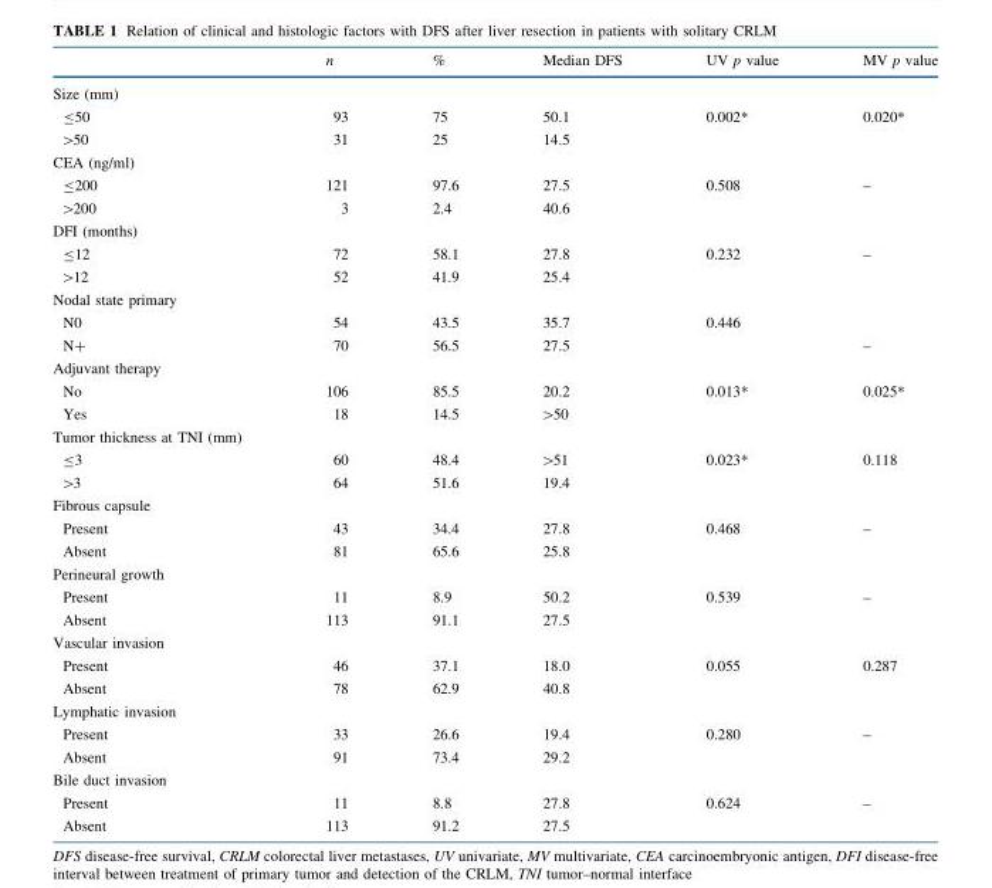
<table><thead><tr><td></td><td>n</td><td>%</td><td>Median DFS</td><td>UV p value</td><td>MV p value</td></tr></thead><tbody><tr><td colspan="6">Size (mm)</td></tr><tr><td>≤50</td><td>93</td><td>75</td><td>50.1</td><td>0.002*</td><td>0.020*</td></tr><tr><td>&gt;50</td><td>31</td><td>25</td><td>14.5</td><td></td><td></td></tr><tr><td colspan="6">CEA (ng/ml)</td></tr><tr><td>≤200</td><td>121</td><td>97.6</td><td>27.5</td><td>0.508</td><td>–</td></tr><tr><td>&gt;200</td><td>3</td><td>2.4</td><td>40.6</td><td></td><td></td></tr><tr><td colspan="6">DFI (months)</td></tr><tr><td>≤12</td><td>72</td><td>58.1</td><td>27.8</td><td>0.232</td><td>–</td></tr><tr><td>&gt;12</td><td>52</td><td>41.9</td><td>25.4</td><td></td><td></td></tr><tr><td colspan="6">Nodal state primary</td></tr><tr><td>N0</td><td>54</td><td>43.5</td><td>35.7</td><td>0.446</td><td></td></tr><tr><td>N+</td><td>70</td><td>56.5</td><td>27.5</td><td></td><td>–</td></tr><tr><td colspan="6">Adjuvant therapy</td></tr><tr><td>No</td><td>106</td><td>85.5</td><td>20.2</td><td>0.013*</td><td>0.025*</td></tr><tr><td>Yes</td><td>18</td><td>14.5</td><td>&gt;50</td><td></td><td></td></tr><tr><td colspan="6">Tumor thickness at TNI (mm)</td></tr><tr><td>≤3</td><td>60</td><td>48.4</td><td>&gt;51</td><td rowspan="2">0.023*</td><td rowspan="2">0.118</td></tr><tr><td>&gt;3</td><td>64</td><td>51.6</td><td>19.4</td></tr><tr><td colspan="6">Fibrous capsule</td></tr><tr><td>Present</td><td>43</td><td>34.4</td><td>27.8</td><td rowspan="2">0.468</td><td rowspan="2">–</td></tr><tr><td>Absent</td><td>81</td><td>65.6</td><td>25.8</td></tr><tr><td colspan="6">Perineural growth</td></tr><tr><td>Present</td><td>11</td><td>8.9</td><td>50.2</td><td rowspan="2">0.539</td><td rowspan="2">–</td></tr><tr><td>Absent</td><td>113</td><td>91.1</td><td>27.5</td></tr><tr><td colspan="6">Vascular invasion</td></tr><tr><td>Present</td><td>46</td><td>37.1</td><td>18.0</td><td rowspan="2">0.055</td><td rowspan="2">0.287</td></tr><tr><td>Absent</td><td>78</td><td>62.9</td><td>40.8</td></tr><tr><td colspan="6">Lymphatic invasion</td></tr><tr><td>Present</td><td>33</td><td>26.6</td><td>19.4</td><td rowspan="2">0.280</td><td rowspan="2">–</td></tr><tr><td>Absent</td><td>91</td><td>73.4</td><td>29.2</td></tr><tr><td colspan="6">Bile duct invasion</td></tr><tr><td>Present</td><td>11</td><td>8.8</td><td>27.8</td><td>0.624</td><td rowspan="2">–</td></tr><tr><td>Absent</td><td>113</td><td>91.2</td><td>27.5</td><td></td></tr></tbody></table>